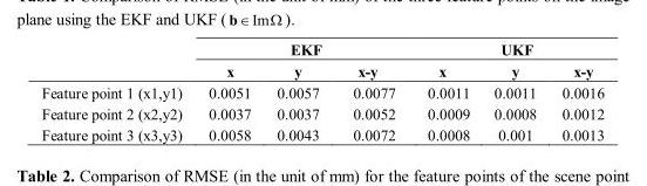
<table><thead><tr><td rowspan="2"></td><td colspan="3">EKF</td><td colspan="3">UKF</td></tr><tr><td>x</td><td>y</td><td>x-y</td><td>x</td><td>y</td><td>x-y</td></tr></thead><tbody><tr><td>Feature point 1 (x1,y1)</td><td>0.0051</td><td>0.0057</td><td>0.0077</td><td>0.0011</td><td>0.0011</td><td>0.0016</td></tr><tr><td>Feature point 2 (x2,y2)</td><td>0.0037</td><td>0.0037</td><td>0.0052</td><td>0.0009</td><td>0.0008</td><td>0.0012</td></tr><tr><td>Feature point 3 (x3,y3)</td><td>0.0058</td><td>0.0043</td><td>0.0072</td><td>0.0008</td><td>0.001</td><td>0.0013</td></tr></tbody></table>